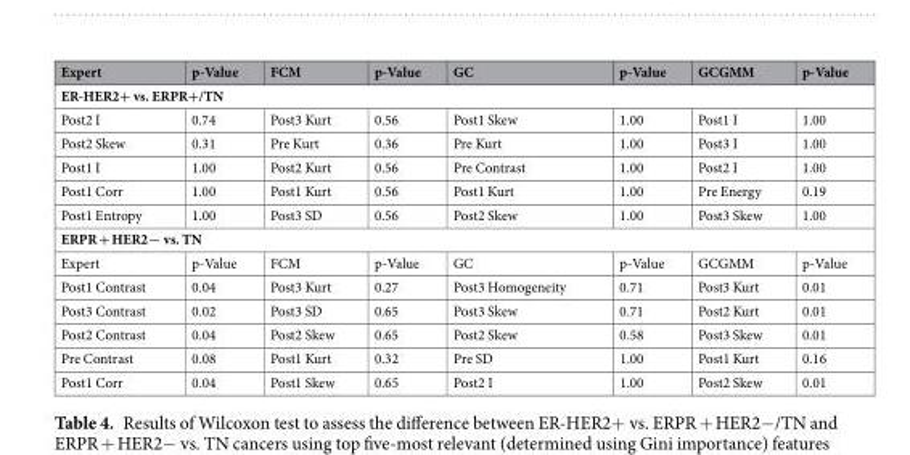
<table><thead><tr><td>Expert</td><td>p-Value</td><td>FCM</td><td>p-Value</td><td>GC</td><td>p-Value</td><td>GCGMM</td><td>p-Value</td></tr></thead><tbody><tr><td colspan="8">ER-HER2+ vs. ERPR+/TN</td></tr><tr><td>Post2 I</td><td>0.74</td><td>Post3 Kurt</td><td>0.56</td><td>Post1 Skew</td><td>1.00</td><td>Post1 I</td><td>1.00</td></tr><tr><td>Post2 Skew</td><td>0.31</td><td>Pre Kurt</td><td>0.36</td><td>Pre Kurt</td><td>1.00</td><td>Post3 I</td><td>1.00</td></tr><tr><td>Post1 I</td><td>1.00</td><td>Post2 Kurt</td><td>0.56</td><td>Pre Contrast</td><td>1.00</td><td>Post2 I</td><td>1.00</td></tr><tr><td>Post1 Corr</td><td>1.00</td><td>Post1 Kurt</td><td>0.56</td><td>Post1 Kurt</td><td>1.00</td><td>Pre Energy</td><td>0.19</td></tr><tr><td>Post1 Entropy</td><td>1.00</td><td>Post3 SD</td><td>0.56</td><td>Post2 Skew</td><td>1.00</td><td>Post3 Skew</td><td>1.00</td></tr><tr><td colspan="8">ERPR + HER2− vs. TN</td></tr><tr><td>Expert</td><td>p-Value</td><td>FCM</td><td>p-Value</td><td>GC</td><td>p-Value</td><td>GCGMM</td><td>p-Value</td></tr><tr><td>Post1 Contrast</td><td>0.04</td><td>Post3 Kurt</td><td>0.27</td><td>Post3 Homogeneity</td><td>0.71</td><td>Post3 Kurt</td><td>0.01</td></tr><tr><td>Post3 Contrast</td><td>0.02</td><td>Post3 SD</td><td>0.65</td><td>Post3 Skew</td><td>0.71</td><td>Post2 Kurt</td><td>0.01</td></tr><tr><td>Post2 Contrast</td><td>0.04</td><td>Post2 Skew</td><td>0.65</td><td>Post2 Skew</td><td>0.58</td><td>Post3 Skew</td><td>0.01</td></tr><tr><td>Pre Contrast</td><td>0.08</td><td>Post1 Kurt</td><td>0.32</td><td>Pre SD</td><td>1.00</td><td>Post1 Kurt</td><td>0.16</td></tr><tr><td>Post1 Corr</td><td>0.04</td><td>Post1 Skew</td><td>0.65</td><td>Post2 I</td><td>1.00</td><td>Post2 Skew</td><td>0.01</td></tr></tbody></table>